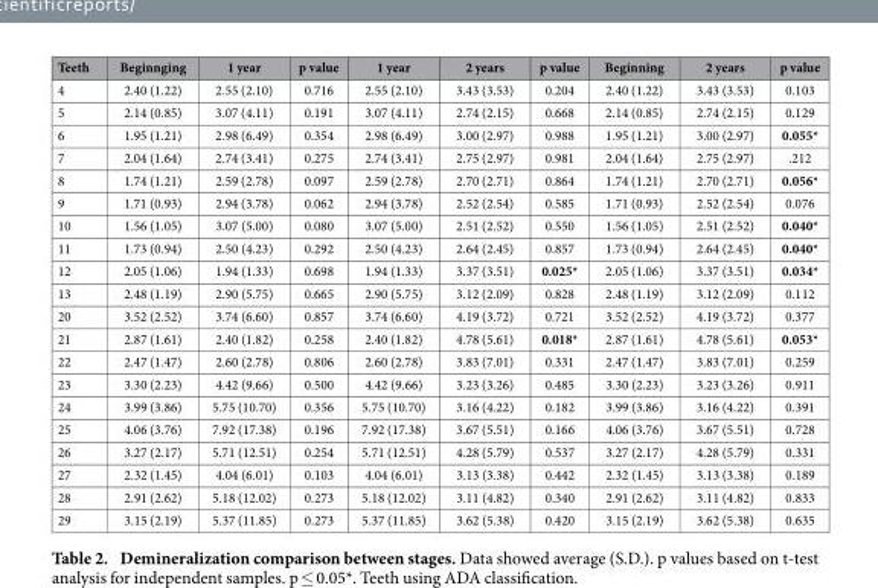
<table><thead><tr><td>Teeth</td><td>Beginnging</td><td>1 year</td><td>p value</td><td>1 year</td><td>2 years</td><td>p value</td><td>Beginning</td><td>2 years</td><td>p value</td></tr></thead><tbody><tr><td>4</td><td>2.40 (1.22)</td><td>2.55 (2.10)</td><td>0.716</td><td>2.55 (2.10)</td><td>3.43 (3.53)</td><td>0.204</td><td>2.40 (1.22)</td><td>3.43 (3.53)</td><td>0.103</td></tr><tr><td>5</td><td>2.14 (0.85)</td><td>3.07 (4.11)</td><td>0.191</td><td>3.07 (4.11)</td><td>2.74 (2.15)</td><td>0.668</td><td>2.14 (0.85)</td><td>2.74 (2.15)</td><td>0.129</td></tr><tr><td>6</td><td>1.95 (1.21)</td><td>2.98 (6.49)</td><td>0.354</td><td>2.98 (6.49)</td><td>3.00 (2.97)</td><td>0.988</td><td>1.95 (1.21)</td><td>3.00 (2.97)</td><td>0.055*</td></tr><tr><td>7</td><td>2.04 (1.64)</td><td>2.74 (3.41)</td><td>0.275</td><td>2.74 (3.41)</td><td>2.75 (2.97)</td><td>0.981</td><td>2.04 (1.64)</td><td>2.75 (2.97)</td><td>.212</td></tr><tr><td>8</td><td>1.74 (1.21)</td><td>2.59 (2.78)</td><td>0.097</td><td>2.59 (2.78)</td><td>2.70 (2.71)</td><td>0.864</td><td>1.74 (1.21)</td><td>2.70 (2.71)</td><td>0.056*</td></tr><tr><td>9</td><td>1.71 (0.93)</td><td>2.94 (3.78)</td><td>0.062</td><td>2.94 (3.78)</td><td>2.52 (2.54)</td><td>0.585</td><td>1.71 (0.93)</td><td>2.52 (2.54)</td><td>0.076</td></tr><tr><td>10</td><td>1.56 (1.05)</td><td>3.07 (5.00)</td><td>0.080</td><td>3.07 (5.00)</td><td>2.51 (2.52)</td><td>0.550</td><td>1.56 (1.05)</td><td>2.51 (2.52)</td><td>0.040*</td></tr><tr><td>11</td><td>1.73 (0.94)</td><td>2.50 (4.23)</td><td>0.292</td><td>2.50 (4.23)</td><td>2.64 (2.45)</td><td>0.857</td><td>1.73 (0.94)</td><td>2.64 (2.45)</td><td>0.040*</td></tr><tr><td>12</td><td>2.05 (1.06)</td><td>1.94 (1.33)</td><td>0.698</td><td>1.94 (1.33)</td><td>3.37 (3.51)</td><td>0.025*</td><td>2.05 (1.06)</td><td>3.37 (3.51)</td><td>0.034*</td></tr><tr><td>13</td><td>2.48 (1.19)</td><td>2.90 (5.75)</td><td>0.665</td><td>2.90 (5.75)</td><td>3.12 (2.09)</td><td>0.828</td><td>2.48 (1.19)</td><td>3.12 (2.09)</td><td>0.112</td></tr><tr><td>20</td><td>3.52 (2.52)</td><td>3.74 (6.60)</td><td>0.857</td><td>3.74 (6.60)</td><td>4.19 (3.72)</td><td>0.721</td><td>3.52 (2.52)</td><td>4.19 (3.72)</td><td>0.377</td></tr><tr><td>21</td><td>2.87 (1.61)</td><td>2.40 (1.82)</td><td>0.258</td><td>2.40 (1.82)</td><td>4.78 (5.61)</td><td>0.018*</td><td>2.87 (1.61)</td><td>4.78 (5.61)</td><td>0.053*</td></tr><tr><td>22</td><td>2.47 (1.47)</td><td>2.60 (2.78)</td><td>0.806</td><td>2.60 (2.78)</td><td>3.83 (7.01)</td><td>0.331</td><td>2.47 (1.47)</td><td>3.83 (7.01)</td><td>0.259</td></tr><tr><td>23</td><td>3.30 (2.23)</td><td>4.42 (9.66)</td><td>0.500</td><td>4.42 (9.66)</td><td>3.23 (3.26)</td><td>0.485</td><td>3.30 (2.23)</td><td>3.23 (3.26)</td><td>0.911</td></tr><tr><td>24</td><td>3.99 (3.86)</td><td>5.75 (10.70)</td><td>0.356</td><td>5.75 (10.70)</td><td>3.16 (4.22)</td><td>0.182</td><td>3.99 (3.86)</td><td>3.16 (4.22)</td><td>0.391</td></tr><tr><td>25</td><td>4.06 (3.76)</td><td>7.92 (17.38)</td><td>0.196</td><td>7.92 (17.38)</td><td>3.67 (5.51)</td><td>0.166</td><td>4.06 (3.76)</td><td>3.67 (5.51)</td><td>0.728</td></tr><tr><td>26</td><td>3.27 (2.17)</td><td>5.71 (12.51)</td><td>0.254</td><td>5.71 (12.51)</td><td>4.28 (5.79)</td><td>0.537</td><td>3.27 (2.17)</td><td>4.28 (5.79)</td><td>0.331</td></tr><tr><td>27</td><td>2.32 (1.45)</td><td>4.04 (6.01)</td><td>0.103</td><td>4.04 (6.01)</td><td>3.13 (3.38)</td><td>0.442</td><td>2.32 (1.45)</td><td>3.13 (3.38)</td><td>0.189</td></tr><tr><td>28</td><td>2.91 (2.62)</td><td>5.18 (12.02)</td><td>0.273</td><td>5.18 (12.02)</td><td>3.11 (4.82)</td><td>0.340</td><td>2.91 (2.62)</td><td>3.11 (4.82)</td><td>0.833</td></tr><tr><td>29</td><td>3.15 (2.19)</td><td>5.37 (11.85)</td><td>0.273</td><td>5.37 (11.85)</td><td>3.62 (5.38)</td><td>0.420</td><td>3.15 (2.19)</td><td>3.62 (5.38)</td><td>0.635</td></tr></tbody></table>